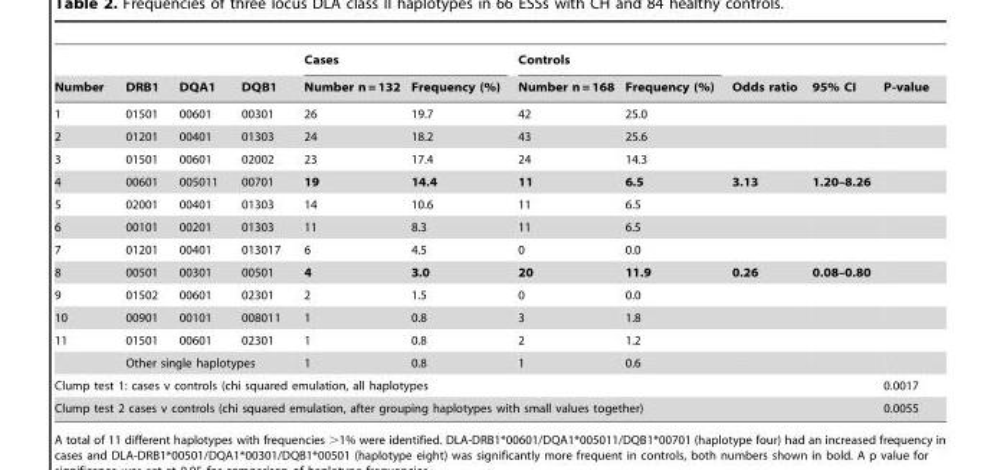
<table><thead><tr><td rowspan="2">Number</td><td rowspan="2">DRB1</td><td rowspan="2">DQA1</td><td rowspan="2">DQB1</td><td colspan="2">Cases</td><td colspan="2">Controls</td><td rowspan="2">Odds ratio</td><td rowspan="2">95% CI</td><td rowspan="2">P-value</td></tr><tr><td>Number n = 132</td><td>Frequency (%)</td><td>Number n = 168</td><td>Frequency (%)</td></tr></thead><tbody><tr><td>1</td><td>01501</td><td>00601</td><td>00301</td><td>26</td><td>19.7</td><td>42</td><td>25.0</td><td></td><td></td><td></td></tr><tr><td>2</td><td>01201</td><td>00401</td><td>01303</td><td>24</td><td>18.2</td><td>43</td><td>25.6</td><td></td><td></td><td></td></tr><tr><td>3</td><td>01501</td><td>00601</td><td>02002</td><td>23</td><td>17.4</td><td>24</td><td>14.3</td><td></td><td></td><td></td></tr><tr><td>4</td><td>00601</td><td>005011</td><td>00701</td><td>19</td><td>14.4</td><td>11</td><td>6.5</td><td>3.13</td><td>1.20–8.26</td><td></td></tr><tr><td>5</td><td>02001</td><td>00401</td><td>01303</td><td>14</td><td>10.6</td><td>11</td><td>6.5</td><td></td><td></td><td></td></tr><tr><td>6</td><td>00101</td><td>00201</td><td>01303</td><td>11</td><td>8.3</td><td>11</td><td>6.5</td><td></td><td></td><td></td></tr><tr><td>7</td><td>01201</td><td>00401</td><td>013017</td><td>6</td><td>4.5</td><td>0</td><td>0.0</td><td></td><td></td><td></td></tr><tr><td>8</td><td>00501</td><td>00301</td><td>00501</td><td>4</td><td>3.0</td><td>20</td><td>11.9</td><td>0.26</td><td>0.08–0.80</td><td></td></tr><tr><td>9</td><td>01502</td><td>00601</td><td>02301</td><td>2</td><td>1.5</td><td>0</td><td>0.0</td><td></td><td></td><td></td></tr><tr><td>10</td><td>00901</td><td>00101</td><td>008011</td><td>1</td><td>0.8</td><td>3</td><td>1.8</td><td></td><td></td><td></td></tr><tr><td rowspan="2">11</td><td>01501</td><td>00601</td><td>02301</td><td>1</td><td>0.8</td><td>2</td><td>1.2</td><td></td><td></td><td></td></tr><tr><td colspan="3">Other single haplotypes</td><td>1</td><td>0.8</td><td>1</td><td>0.6</td><td></td><td></td><td></td></tr><tr><td colspan="10">Clump test 1: cases v controls (chi squared emulation, all haplotypes</td><td>0.0017</td></tr><tr><td colspan="10">Clump test 2 cases v controls (chi squared emulation, after grouping haplotypes with small values together)</td><td>0.0055</td></tr></tbody></table>